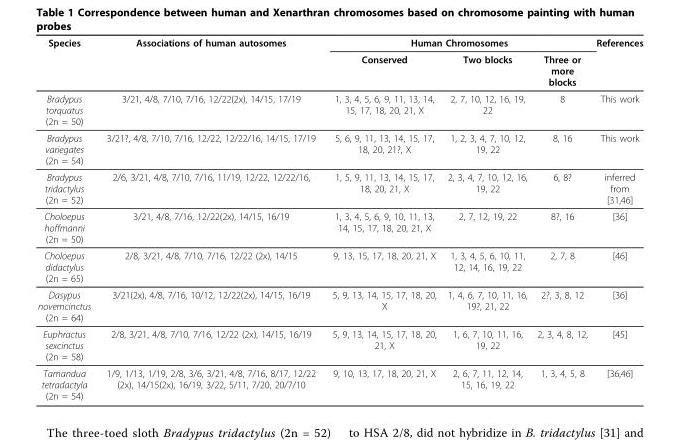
<table><thead><tr><td rowspan="2">Species</td><td rowspan="2">Associations of human autosomes</td><td colspan="3">Human Chromosomes</td><td rowspan="2">References</td></tr><tr><td>Conserved</td><td>Two blocks</td><td>Three or more blocks</td></tr></thead><tbody><tr><td>Bradypus torquatus (2n = 50)</td><td>3/21, 4/8, 7/10, 7/16, 12/22(2x), 14/15, 17/19</td><td>1, 3, 4, 5, 6, 9, 11, 13, 14, 15, 17, 18, 20, 21, X</td><td>2, 7, 10, 12, 16, 19, 22</td><td>8</td><td>This work</td></tr><tr><td>Bradypus variegates (2n = 54)</td><td>3/21?, 4/8, 7/10, 7/16, 12/22, 12/22/16, 14/15, 17/19</td><td>5, 6, 9, 11, 13, 14, 15, 17, 18, 20, 21?, X</td><td>1, 2, 3, 4, 7, 10, 12, 19, 22</td><td>8, 16</td><td>This work</td></tr><tr><td>Bradypus tridactylus (2n = 52)</td><td>2/6, 3/21, 4/8, 7/10, 7/16, 11/19, 12/22, 12/22/16,</td><td>1, 5, 9, 11, 13, 14, 15, 17, 18, 20, 21, X</td><td>2, 3, 4, 7, 10, 12, 16, 19, 22</td><td>6, 8?</td><td>inferred from [31,46]</td></tr><tr><td>Choloepus hoffmanni (2n = 50)</td><td>3/21, 4/8, 7/16, 12/22(2x), 14/15, 16/19</td><td>1, 3, 4, 5, 6, 9, 10, 11, 13, 14, 15, 17, 18, 20, 21, X</td><td>2, 7, 12, 19, 22</td><td>8?, 16</td><td>[36]</td></tr><tr><td>Choloepus didactylus (2n = 65)</td><td>2/8, 3/21, 4/8, 7/10, 7/16, 12/22 (2x), 14/15</td><td>9, 13, 15, 17, 18, 20, 21, X</td><td>1, 3, 4, 5, 6, 10, 11, 12, 14, 16, 19, 22</td><td>2, 7, 8</td><td>[46]</td></tr><tr><td>Dasypus novemcinctus (2n = 64)</td><td>3/21(2x), 4/8, 7/16, 10/12, 12/22(2x), 14/15, 16/19</td><td>5, 9, 13, 14, 15, 17, 18, 20, X</td><td>1, 4, 6, 7, 10, 11, 16, 19?, 21, 22</td><td>2?, 3, 8, 12</td><td>[36]</td></tr><tr><td>Euphractus sexcinctus (2n = 58)</td><td>2/8, 3/21, 4/8, 7/10, 7/16, 12/22 (2x), 14/15, 16/19</td><td>5, 9, 13, 14, 15, 17, 18, 20, 21, X</td><td>1, 6, 7, 10, 11, 16, 19, 22</td><td>2, 3, 4, 8, 12,</td><td>[45]</td></tr><tr><td>Tamandua tetradactyla (2n = 54)</td><td>1/9, 1/13, 1/19, 2/8, 3/6, 3/21, 4/8, 7/16, 8/17, 12/22 (2x), 14/15(2x), 16/19, 3/22, 5/11, 7/20, 20/7/10</td><td>9, 10, 13, 17, 18, 20, 21, X</td><td>2, 6, 7, 11, 12, 14, 15, 16, 19, 22</td><td>1, 3, 4, 5, 8</td><td>[36,46]</td></tr></tbody></table>